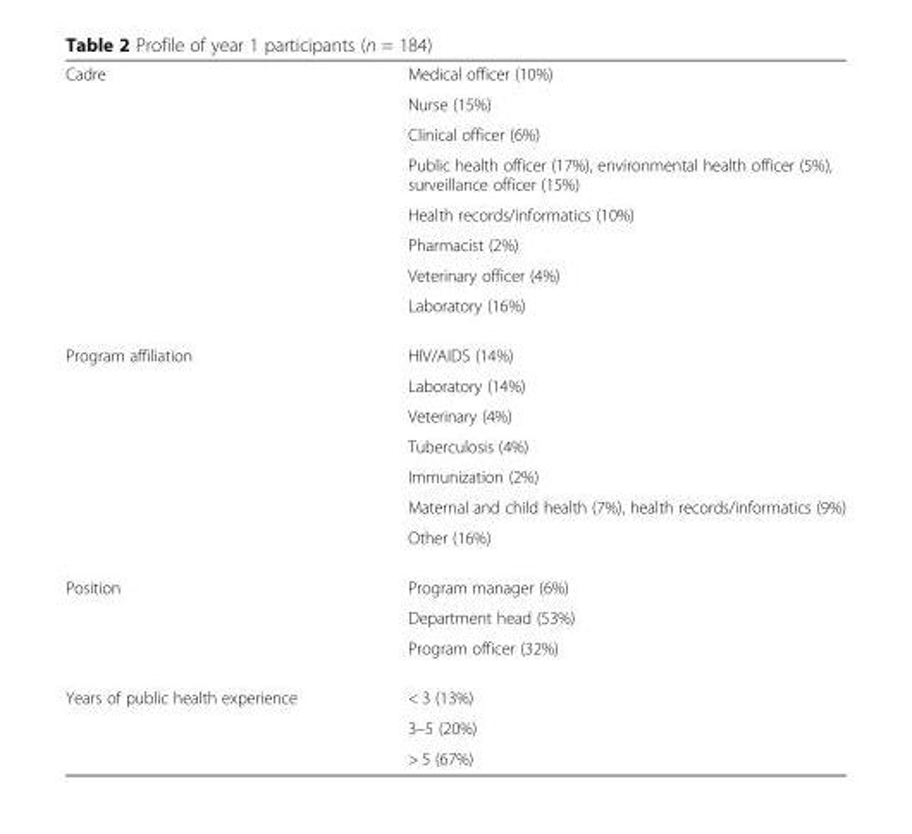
<table><tbody><tr><td rowspan="8">Cadre</td><td>Medical officer (10%)</td></tr><tr><td>Nurse (15%)</td></tr><tr><td>Clinical officer (6%)</td></tr><tr><td>Public health officer (17%), environmental health officer (5%), surveillance officer (15%)</td></tr><tr><td>Health records/informatics (10%)</td></tr><tr><td>Pharmacist (2%)</td></tr><tr><td>Veterinary officer (4%)</td></tr><tr><td>Laboratory (16%)</td></tr><tr><td rowspan="7">Program affiliation</td><td>HIV/AIDS (14%)</td></tr><tr><td>Laboratory (14%)</td></tr><tr><td>Veterinary (4%)</td></tr><tr><td>Tuberculosis (4%)</td></tr><tr><td>Immunization (2%)</td></tr><tr><td>Maternal and child health (7%), health records/informatics (9%)</td></tr><tr><td>Other (16%)</td></tr><tr><td rowspan="3">Position</td><td>Program manager (6%)</td></tr><tr><td>Department head (53%)</td></tr><tr><td>Program officer (32%)</td></tr><tr><td rowspan="3">Years of public health experience</td><td>&lt; 3 (13%)</td></tr><tr><td>3–5 (20%)</td></tr><tr><td>&gt; 5 (67%)</td></tr></tbody></table>